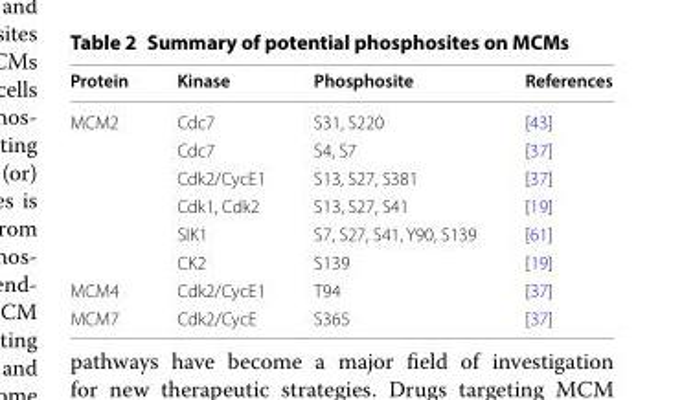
<table><thead><tr><td>Protein</td><td>Kinase</td><td>Phosphosite</td><td>References</td></tr></thead><tbody><tr><td rowspan="6">MCM2</td><td>Cdc7</td><td>S31, S220</td><td>[43]</td></tr><tr><td>Cdc7</td><td>S4, S7</td><td>[37]</td></tr><tr><td>Cdk2/CycE1</td><td>S13, S27, S381</td><td>[37]</td></tr><tr><td>Cdk1, Cdk2</td><td>S13, S27, S41</td><td>[19]</td></tr><tr><td>SIK1</td><td>S7, S27, S41, Y90, S139</td><td>[61]</td></tr><tr><td>CK2</td><td>S139</td><td>[19]</td></tr><tr><td>MCM4</td><td>Cdk2/CycE1</td><td>T94</td><td>[37]</td></tr><tr><td>MCM7</td><td>Cdk2/CycE</td><td>S365</td><td>[37]</td></tr></tbody></table>